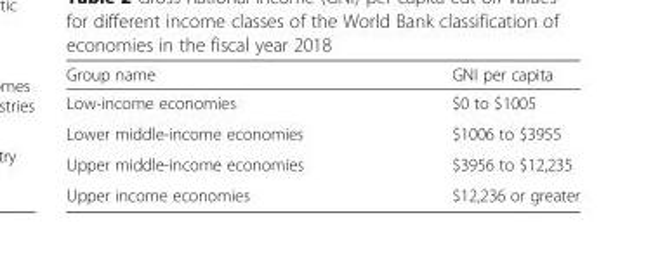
<table><thead><tr><td>Group name</td><td>GNI per capita</td></tr></thead><tbody><tr><td>Low-income economies</td><td>$0 to $1005</td></tr><tr><td>Lower middle-income economies</td><td>$1006 to $3955</td></tr><tr><td>Upper middle-income economies</td><td>$3956 to $12,235</td></tr><tr><td>Upper income economies</td><td>$12,236 or greater</td></tr></tbody></table>